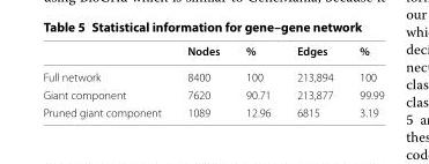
<table><thead><tr><td></td><td>Nodes</td><td>%</td><td>Edges</td><td>%</td></tr></thead><tbody><tr><td>Full network</td><td>8400</td><td>100</td><td>213,894</td><td>100</td></tr><tr><td>Giant component</td><td>7620</td><td>90.71</td><td>213,877</td><td>99.99</td></tr><tr><td>Pruned giant component</td><td>1089</td><td>12.96</td><td>6815</td><td>3.19</td></tr></tbody></table>